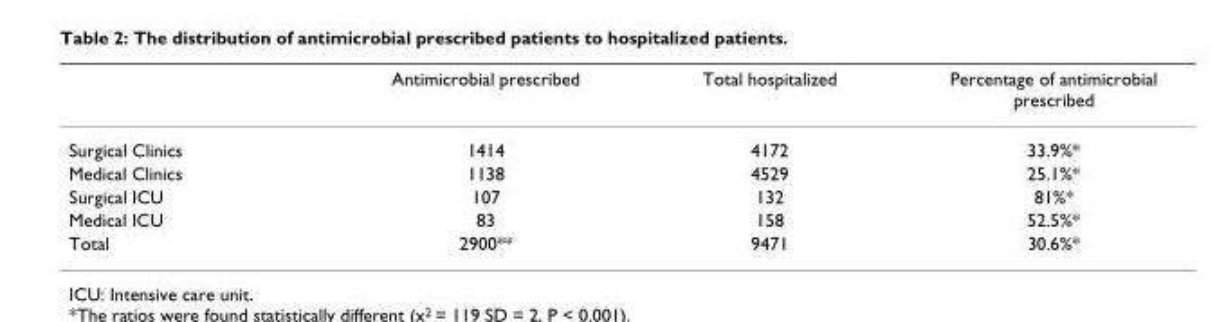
<table><thead><tr><td></td><td>Antimicrobial prescribed</td><td>Total hospitalized</td><td>Percentage of antimicrobial prescribed</td></tr></thead><tbody><tr><td>Surgical Clinics</td><td>1414</td><td>4172</td><td>33.9%*</td></tr><tr><td>Medical Clinics</td><td>1138</td><td>4529</td><td>25.1%*</td></tr><tr><td>Surgical ICU</td><td>107</td><td>132</td><td>81%*</td></tr><tr><td>Medical ICU</td><td>83</td><td>158</td><td>52.5%*</td></tr><tr><td>Total</td><td>2900**</td><td>9471</td><td>30.6%*</td></tr></tbody></table>